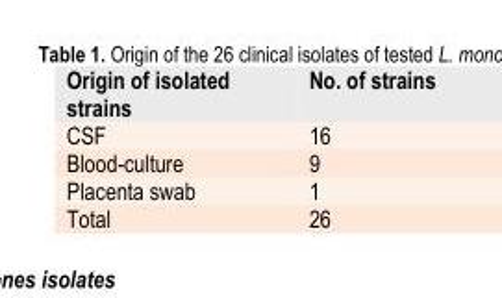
<table><thead><tr><td>Origin of isolated strains</td><td>No. of strains</td></tr></thead><tbody><tr><td>CSF</td><td>16</td></tr><tr><td>Blood-culture</td><td>9</td></tr><tr><td>Placenta swab</td><td>1</td></tr><tr><td>Total</td><td>26</td></tr></tbody></table>